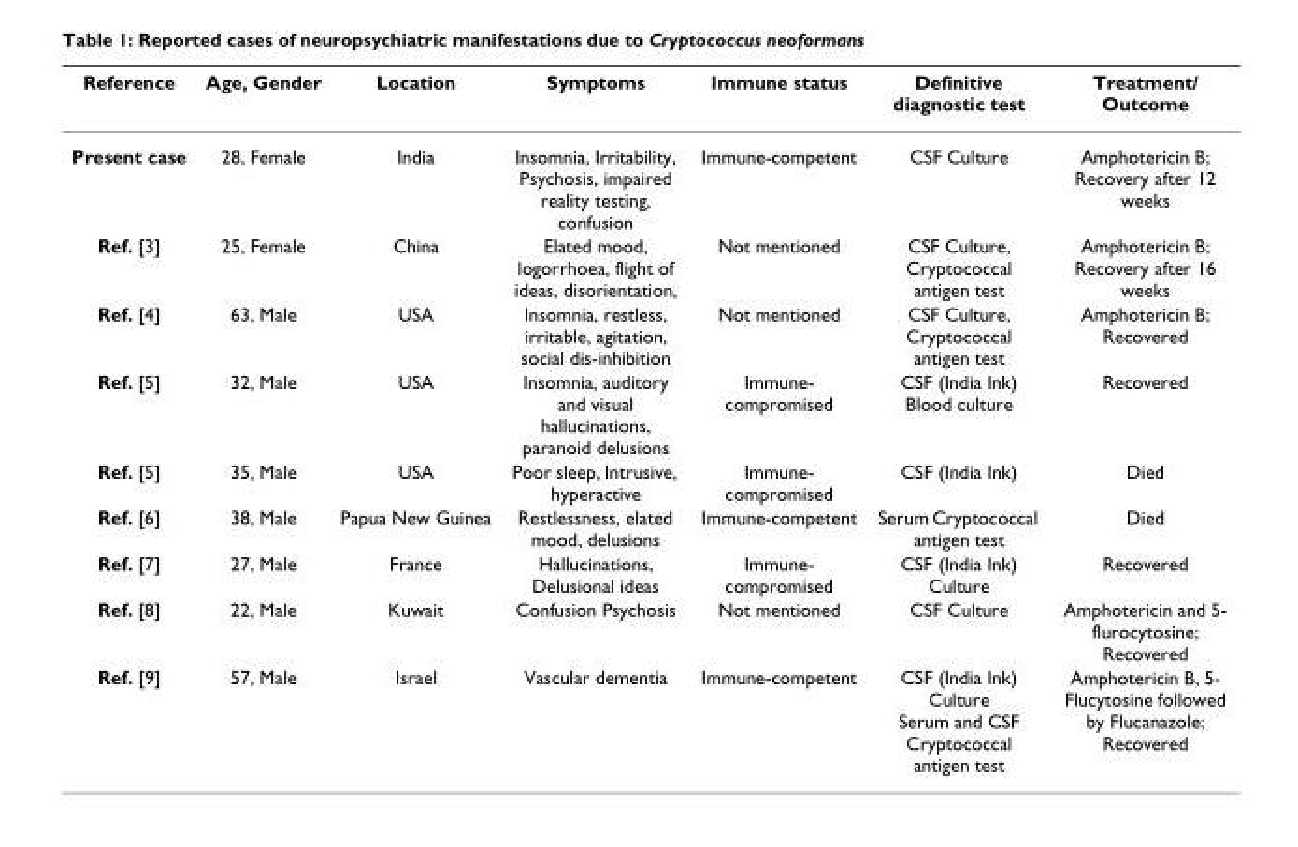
<table><thead><tr><td>Reference</td><td>Age, Gender</td><td>Location</td><td>Symptoms</td><td>Immune status</td><td>Definitive diagnostic test</td><td>Treatment/ Outcome</td></tr></thead><tbody><tr><td>Present case</td><td>28, Female</td><td>India</td><td>Insomnia, Irritability, Psychosis, impaired reality testing, confusion</td><td>Immune-competent</td><td>CSF Culture</td><td>Amphotericin B; Recovery after 12 weeks</td></tr><tr><td>Ref. [3]</td><td>25, Female</td><td>China</td><td>Elated mood, logorrhoea, flight of ideas, disorientation,</td><td>Not mentioned</td><td>CSF Culture, Cryptococcal antigen test</td><td>Amphotericin B; Recovery after 16 weeks</td></tr><tr><td>Ref. [4]</td><td>63, Male</td><td>USA</td><td>Insomnia, restless, irritable, agitation, social dis-inhibition</td><td>Not mentioned</td><td>CSF Culture, Cryptococcal antigen test</td><td>Amphotericin B; Recovered</td></tr><tr><td>Ref. [5]</td><td>32, Male</td><td>USA</td><td>Insomnia, auditory and visual hallucinations, paranoid delusions</td><td>Immune- compromised</td><td>CSF (India Ink) Blood culture</td><td>Recovered</td></tr><tr><td>Ref. [5]</td><td>35, Male</td><td>USA</td><td>Poor sleep, Intrusive, hyperactive</td><td>Immune- compromised</td><td>CSF (India Ink)</td><td>Died</td></tr><tr><td>Ref. [6]</td><td>38, Male</td><td>Papua New Guinea</td><td>Restlessness, elated mood, delusions</td><td>Immune-competent</td><td>Serum Cryptococcal antigen test</td><td>Died</td></tr><tr><td>Ref. [7]</td><td>27, Male</td><td>France</td><td>Hallucinations, Delusional ideas</td><td>Immune- compromised</td><td>CSF (India Ink) Culture</td><td>Recovered</td></tr><tr><td>Ref. [8]</td><td>22, Male</td><td>Kuwait</td><td>Confusion Psychosis</td><td>Not mentioned</td><td>CSF Culture</td><td>Amphotericin and 5- flurocytosine; Recovered</td></tr><tr><td>Ref. [9]</td><td>57, Male</td><td>Israel</td><td>Vascular dementia</td><td>Immune-competent</td><td>CSF (India Ink) Culture Serum and CSF Cryptococcal antigen test</td><td>Amphotericin B, 5- Flucytosine followed by Flucanazole; Recovered</td></tr></tbody></table>